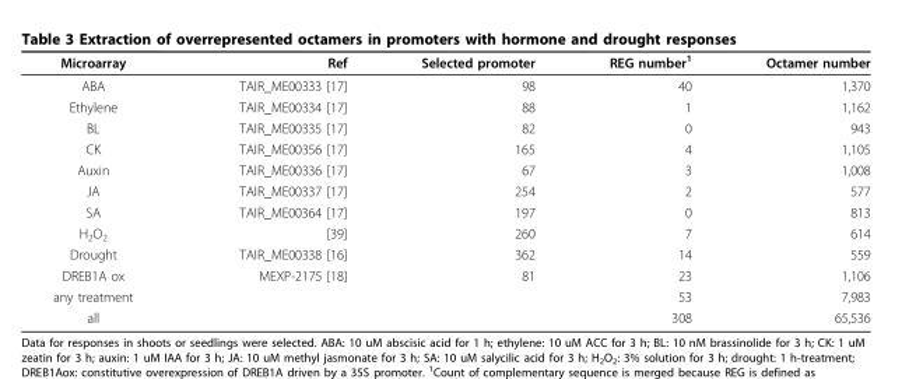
<table><thead><tr><td>Microarray</td><td>Ref</td><td>Selected promoter</td><td>REG number<sup>1</sup></td><td>Octamer number</td></tr></thead><tbody><tr><td>ABA</td><td>TAIR_ME00333 [17]</td><td>98</td><td>40</td><td>1,370</td></tr><tr><td>Ethylene</td><td>TAIR_ME00334 [17]</td><td>88</td><td>1</td><td>1,162</td></tr><tr><td>BL</td><td>TAIR_ME00335 [17]</td><td>82</td><td>0</td><td>943</td></tr><tr><td>CK</td><td>TAIR_ME00356 [17]</td><td>165</td><td>4</td><td>1,105</td></tr><tr><td>Auxin</td><td>TAIR_ME00336 [17]</td><td>67</td><td>3</td><td>1,008</td></tr><tr><td>JA</td><td>TAIR_ME00337 [17]</td><td>254</td><td>2</td><td>577</td></tr><tr><td>SA</td><td>TAIR_ME00364 [17]</td><td>197</td><td>0</td><td>813</td></tr><tr><td>H<sub>2</sub>O<sub>2</sub></td><td>[39]</td><td>260</td><td>7</td><td>614</td></tr><tr><td>Drought</td><td>TAIR_ME00338 [16]</td><td>362</td><td>14</td><td>559</td></tr><tr><td>DREB1A ox</td><td>MEXP-2175 [18]</td><td>81</td><td>23</td><td>1,106</td></tr><tr><td>any treatment</td><td></td><td></td><td>53</td><td>7,983</td></tr><tr><td>all</td><td></td><td></td><td>308</td><td>65,536</td></tr></tbody></table>